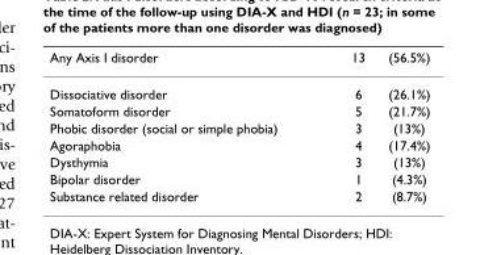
<table><thead><tr><td>Any Axis I disorder</td><td>13</td><td>(56.5%)</td></tr></thead><tbody><tr><td>Dissociative disorder</td><td>6</td><td>(26.1%)</td></tr><tr><td>Somatoform disorder</td><td>5</td><td>(21.7%)</td></tr><tr><td>Phobic disorder (social or simple phobia)</td><td>3</td><td>(13%)</td></tr><tr><td>Agoraphobia</td><td>4</td><td>(17.4%)</td></tr><tr><td>Dysthymia</td><td>3</td><td>(13%)</td></tr><tr><td>Bipolar disorder</td><td>1</td><td>(4.3%)</td></tr><tr><td>Substance related disorder</td><td>2</td><td>(8.7%)</td></tr></tbody></table>